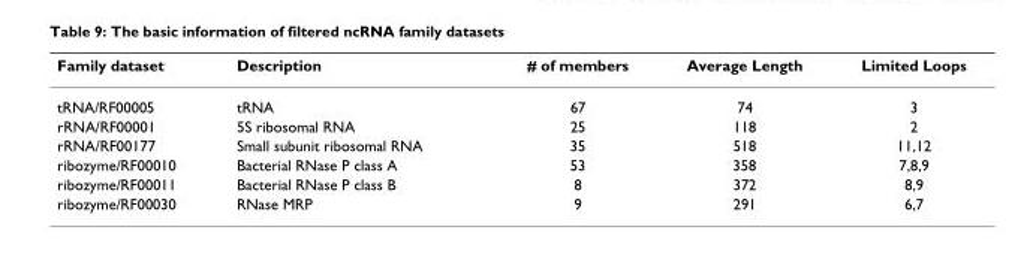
<table><thead><tr><td>Family dataset</td><td>Description</td><td># of members</td><td>Average Length</td><td>Limited Loops</td></tr></thead><tbody><tr><td>tRNA/RF00005</td><td>tRNA</td><td>67</td><td>74</td><td>3</td></tr><tr><td>rRNA/RF00001</td><td>5S ribosomal RNA</td><td>25</td><td>118</td><td>2</td></tr><tr><td>rRNA/RF00177</td><td>Small subunit ribosomal RNA</td><td>35</td><td>518</td><td>11,12</td></tr><tr><td>ribozyme/RF00010</td><td>Bacterial RNase P class A</td><td>53</td><td>358</td><td>7,8,9</td></tr><tr><td>ribozyme/RF00011</td><td>Bacterial RNase P class B</td><td>8</td><td>372</td><td>8,9</td></tr><tr><td>ribozyme/RF00030</td><td>RNase MRP</td><td>9</td><td>291</td><td>6,7</td></tr></tbody></table>